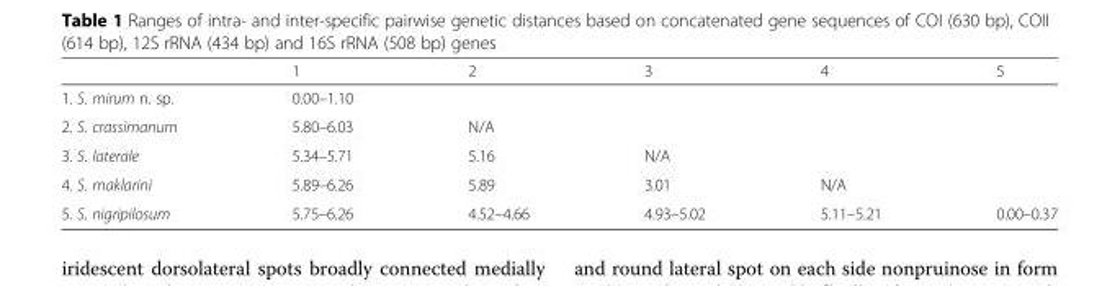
<table><thead><tr><td></td><td>1</td><td>2</td><td>3</td><td>4</td><td>5</td></tr></thead><tbody><tr><td>1. S. mirum n. sp.</td><td>0.00–1.10</td><td></td><td></td><td></td><td></td></tr><tr><td>2. S. crassimanum</td><td>5.80–6.03</td><td>N/A</td><td></td><td></td><td></td></tr><tr><td>3. S. laterale</td><td>5.34–5.71</td><td>5.16</td><td>N/A</td><td></td><td></td></tr><tr><td>4. S. maklarini</td><td>5.89–6.26</td><td>5.89</td><td>3.01</td><td>N/A</td><td></td></tr><tr><td>5. S. nigripilosum</td><td>5.75–6.26</td><td>4.52–4.66</td><td>4.93–5.02</td><td>5.11–5.21</td><td>0.00–0.37</td></tr></tbody></table>